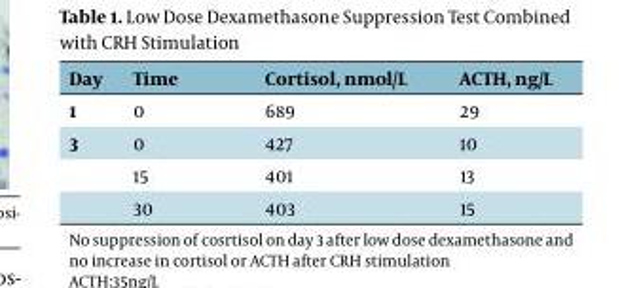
<table><thead><tr><td>Day</td><td>Time</td><td>Cortisol, nmol/L</td><td>ACTH, ng/L</td></tr></thead><tbody><tr><td>1</td><td>0</td><td>689</td><td>29</td></tr><tr><td rowspan="3">3</td><td>0</td><td>427</td><td>10</td></tr><tr><td>15</td><td>401</td><td>13</td></tr><tr><td>30</td><td>403</td><td>15</td></tr></tbody></table>